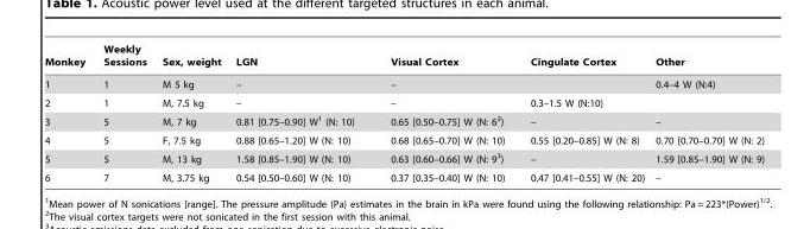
<table><thead><tr><td>Monkey</td><td>Weekly Sessions</td><td>Sex, weight</td><td>LGN</td><td>Visual Cortex</td><td>Cingulate Cortex</td><td>Other</td></tr></thead><tbody><tr><td>1</td><td>1</td><td>M 5 kg</td><td>–</td><td>–</td><td></td><td>0.4–4 W (N:4)</td></tr><tr><td>2</td><td>1</td><td>M, 7.5 kg</td><td>–</td><td>–</td><td>0.3–1.5 W (N:10)</td><td></td></tr><tr><td>3</td><td>5</td><td>M, 7 kg</td><td>0.81 [0.75–0.90] W<sup>1</sup> (N: 10)</td><td>0.65 [0.50–0.75] W (N: 6<sup>2</sup>)</td><td>–</td><td>–</td></tr><tr><td>4</td><td>5</td><td>F, 7.5 kg</td><td>0.88 [0.65–1.20] W (N: 10)</td><td>0.68 [0.65–0.70] W (N: 10)</td><td>0.55 [0.20–0.85] W (N: 8)</td><td>0.70 [0.70–0.70] W (N: 2)</td></tr><tr><td>5</td><td>5</td><td>M, 13 kg</td><td>1.58 [0.85–1.90] W (N: 10)</td><td>0.63 [0.60–0.66] W (N: 9<sup>3</sup>)</td><td>–</td><td>1.59 [0.85–1.90] W (N: 9)</td></tr><tr><td>6</td><td>7</td><td>M, 3.75 kg</td><td>0.54 [0.50–0.60] W (N: 10)</td><td>0.37 [0.35–0.40] W (N: 10)</td><td>0.47 [0.41–0.55] W (N: 20)</td><td>–</td></tr></tbody></table>